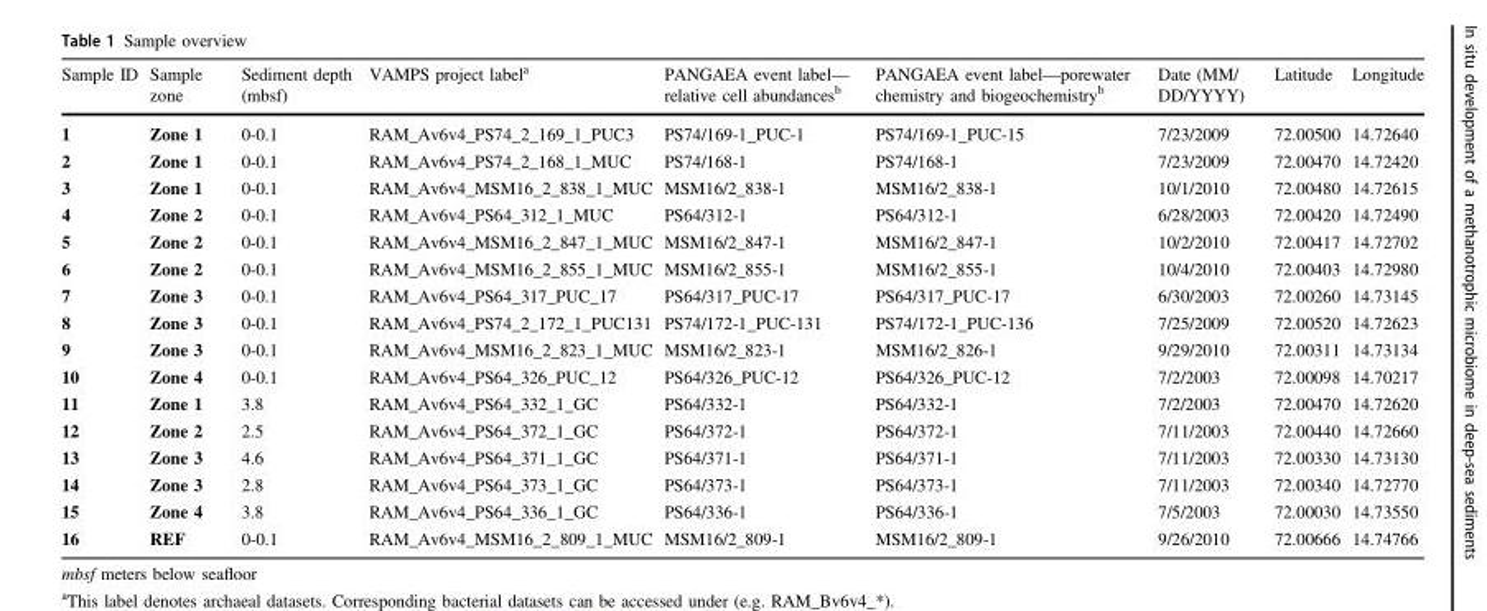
<table><thead><tr><td>Sample ID</td><td>Sample zone</td><td>Sediment depth (mbsf)</td><td>VAMPS project label<sup>a</sup></td><td>PANGAEA event label— relative cell abundances<sup>b</sup></td><td>PANGAEA event label—porewater chemistry and biogeochemistry<sup>b</sup></td><td>Date (MM/ DD/YYYY)</td><td>Latitude</td><td>Longitude</td></tr></thead><tbody><tr><td>1</td><td>Zone 1</td><td>0-0.1</td><td>RAM_Av6v4_PS74_2_169_1_PUC3</td><td>PS74/169-1_PUC-1</td><td>PS74/169-1_PUC-15</td><td>7/23/2009</td><td>72.00500</td><td>14.72640</td></tr><tr><td>2</td><td>Zone 1</td><td>0-0.1</td><td>RAM_Av6v4_PS74_2_168_1_MUC</td><td>PS74/168-1</td><td>PS74/168-1</td><td>7/23/2009</td><td>72.00470</td><td>14.72420</td></tr><tr><td>3</td><td>Zone 1</td><td>0-0.1</td><td>RAM_Av6v4_MSM16_2_838_1_MUC</td><td>MSM16/2_838-1</td><td>MSM16/2_838-1</td><td>10/1/2010</td><td>72.00480</td><td>14.72615</td></tr><tr><td>4</td><td>Zone 2</td><td>0-0.1</td><td>RAM_Av6v4_PS64_312_1_MUC</td><td>PS64/312-1</td><td>PS64/312-1</td><td>6/28/2003</td><td>72.00420</td><td>14.72490</td></tr><tr><td>5</td><td>Zone 2</td><td>0-0.1</td><td>RAM_Av6v4_MSM16_2_847_1_MUC</td><td>MSM16/2_847-1</td><td>MSM16/2_847-1</td><td>10/2/2010</td><td>72.00417</td><td>14.72702</td></tr><tr><td>6</td><td>Zone 2</td><td>0-0.1</td><td>RAM_Av6v4_MSM16_2_855_1_MUC</td><td>MSM16/2_855-1</td><td>MSM16/2_855-1</td><td>10/4/2010</td><td>72.00403</td><td>14.72980</td></tr><tr><td>7</td><td>Zone 3</td><td>0-0.1</td><td>RAM_Av6v4_PS64_317_PUC_17</td><td>PS64/317_PUC-17</td><td>PS64/317_PUC-17</td><td>6/30/2003</td><td>72.00260</td><td>14.73145</td></tr><tr><td>8</td><td>Zone 3</td><td>0-0.1</td><td>RAM_Av6v4_PS74_2_172_1_PUC131</td><td>PS74/172-1_PUC-131</td><td>PS74/172-1_PUC-136</td><td>7/25/2009</td><td>72.00520</td><td>14.72623</td></tr><tr><td>9</td><td>Zone 3</td><td>0-0.1</td><td>RAM_Av6v4_MSM16_2_823_1_MUC</td><td>MSM16/2_823-1</td><td>MSM16/2_826-1</td><td>9/29/2010</td><td>72.00311</td><td>14.73134</td></tr><tr><td>10</td><td>Zone 4</td><td>0-0.1</td><td>RAM_Av6v4_PS64_326_PUC_12</td><td>PS64/326_PUC-12</td><td>PS64/326_PUC-12</td><td>7/2/2003</td><td>72.00098</td><td>14.70217</td></tr><tr><td>11</td><td>Zone 1</td><td>3.8</td><td>RAM_Av6v4_PS64_332_1_GC</td><td>PS64/332-1</td><td>PS64/332-1</td><td>7/2/2003</td><td>72.00470</td><td>14.72620</td></tr><tr><td>12</td><td>Zone 2</td><td>2.5</td><td>RAM_Av6v4_PS64_372_1_GC</td><td>PS64/372-1</td><td>PS64/372-1</td><td>7/11/2003</td><td>72.00440</td><td>14.72660</td></tr><tr><td>13</td><td>Zone 3</td><td>4.6</td><td>RAM_Av6v4_PS64_371_1_GC</td><td>PS64/371-1</td><td>PS64/371-1</td><td>7/11/2003</td><td>72.00330</td><td>14.73130</td></tr><tr><td>14</td><td>Zone 3</td><td>2.8</td><td>RAM_Av6v4_PS64_373_1_GC</td><td>PS64/373-1</td><td>PS64/373-1</td><td>7/11/2003</td><td>72.00340</td><td>14.72770</td></tr><tr><td>15</td><td>Zone 4</td><td>3.8</td><td>RAM_Av6v4_PS64_336_1_GC</td><td>PS64/336-1</td><td>PS64/336-1</td><td>7/5/2003</td><td>72.00030</td><td>14.73550</td></tr><tr><td>16</td><td>REF</td><td>0-0.1</td><td>RAM_Av6v4_MSM16_2_809_1_MUC</td><td>MSM16/2_809-1</td><td>MSM16/2_809-1</td><td>9/26/2010</td><td>72.00666</td><td>14.74766</td></tr></tbody></table>